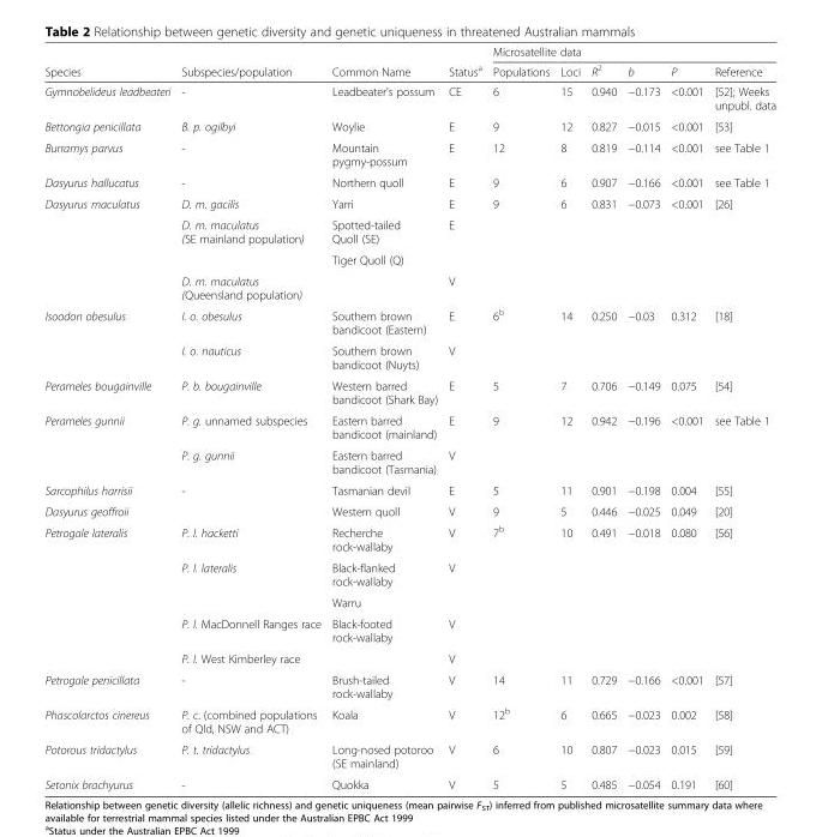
<table><thead><tr><td rowspan="2">Species</td><td rowspan="2">Subspecies/population</td><td rowspan="2">Common Name</td><td rowspan="2">Status<sup>a</sup></td><td colspan="6">Microsatellite data</td></tr><tr><td>Populations</td><td>Loci</td><td>R<sup>2</sup></td><td>b</td><td>P</td><td>Reference</td></tr></thead><tbody><tr><td>Gymnobelideus leadbeateri</td><td>-</td><td>Leadbeater&#x27;s possum</td><td>CE</td><td>6</td><td>15</td><td>0.940</td><td>−0.173</td><td>&lt;0.001</td><td>[52]; Weeks unpubl. data</td></tr><tr><td>Bettongia penicillata</td><td>B. p. ogilbyi</td><td>Woylie</td><td>E</td><td>9</td><td>12</td><td>0.827</td><td>−0.015</td><td>&lt;0.001</td><td>[53]</td></tr><tr><td>Burramys parvus</td><td>-</td><td>Mountain pygmy-possum</td><td>E</td><td>12</td><td>8</td><td>0.819</td><td>−0.114</td><td>&lt;0.001</td><td>see Table 1</td></tr><tr><td>Dasyurus hallucatus</td><td>-</td><td>Northern quoll</td><td>E</td><td>9</td><td>6</td><td>0.907</td><td>−0.166</td><td>&lt;0.001</td><td>see Table 1</td></tr><tr><td rowspan="4">Dasyurus maculatus</td><td>D. m. gacilis</td><td>Yarri</td><td>E</td><td>9</td><td>6</td><td>0.831</td><td>−0.073</td><td>&lt;0.001</td><td>[26]</td></tr><tr><td rowspan="2">D. m. maculatus (SE mainland population)</td><td>Spotted-tailed Quoll (SE)</td><td>E</td><td></td><td></td><td></td><td></td><td></td><td></td></tr><tr><td>Tiger Quoll (Q)</td><td></td><td></td><td></td><td></td><td></td><td></td><td></td></tr><tr><td>D. m. maculatus (Queensland population)</td><td></td><td>V</td><td></td><td></td><td></td><td></td><td></td><td></td></tr><tr><td rowspan="2">Isoodon obesulus</td><td>I. o. obesulus</td><td>Southern brown bandicoot (Eastern)</td><td>E</td><td>6<sup>b</sup></td><td>14</td><td>0.250</td><td>−0.03</td><td>0.312</td><td>[18]</td></tr><tr><td>I. o. nauticus</td><td>Southern brown bandicoot (Nuyts)</td><td>V</td><td></td><td></td><td></td><td></td><td></td><td></td></tr><tr><td>Perameles bougainville</td><td>P. b. bougainville</td><td>Western barred bandicoot (Shark Bay)</td><td>E</td><td>5</td><td>7</td><td>0.706</td><td>−0.149</td><td>0.075</td><td>[54]</td></tr><tr><td rowspan="2">Perameles gunnii</td><td>P. g. unnamed subspecies</td><td>Eastern barred bandicoot (mainland)</td><td>E</td><td>9</td><td>12</td><td>0.942</td><td>−0.196</td><td>&lt;0.001</td><td>see Table 1</td></tr><tr><td>P. g. gunnii</td><td>Eastern barred bandicoot (Tasmania)</td><td>V</td><td></td><td></td><td></td><td></td><td></td><td></td></tr><tr><td>Sarcophilus harrisii</td><td>-</td><td>Tasmanian devil</td><td>E</td><td>5</td><td>11</td><td>0.901</td><td>−0.198</td><td>0.004</td><td>[55]</td></tr><tr><td>Dasyurus geoffroii</td><td></td><td>Western quoll</td><td>V</td><td>9</td><td>5</td><td>0.446</td><td>−0.025</td><td>0.049</td><td>[20]</td></tr><tr><td rowspan="5">Petrogale lateralis</td><td>P. l. hacketti</td><td>Recherche rock-wallaby</td><td>V</td><td>7<sup>b</sup></td><td>10</td><td>0.491</td><td>−0.018</td><td>0.080</td><td>[56]</td></tr><tr><td>P. l. lateralis</td><td>Black-flanked rock-wallaby</td><td>V</td><td></td><td></td><td></td><td></td><td></td><td></td></tr><tr><td></td><td>Warru</td><td></td><td></td><td></td><td></td><td></td><td></td><td></td></tr><tr><td>P. l. MacDonnell Ranges race</td><td>Black-footed rock-wallaby</td><td>V</td><td></td><td></td><td></td><td></td><td></td><td></td></tr><tr><td>P. l. West Kimberley race</td><td></td><td>V</td><td></td><td></td><td></td><td></td><td></td><td></td></tr><tr><td>Petrogale penicillata</td><td>-</td><td>Brush-tailed rock-wallaby</td><td>V</td><td>14</td><td>11</td><td>0.729</td><td>−0.166</td><td>&lt;0.001</td><td>[57]</td></tr><tr><td>Phascolarctos cinereus</td><td>P. c. (combined populations of Qld, NSW and ACT)</td><td>Koala</td><td>V</td><td>12<sup>b</sup></td><td>6</td><td>0.665</td><td>−0.023</td><td>0.002</td><td>[58]</td></tr><tr><td>Potorous tridactylus</td><td>P. t. tridactylus</td><td>Long-nosed potoroo (SE mainland)</td><td>V</td><td>6</td><td>10</td><td>0.807</td><td>−0.023</td><td>0.015</td><td>[59]</td></tr><tr><td>Setonix brachyurus</td><td>-</td><td>Quokka</td><td>V</td><td>5</td><td>5</td><td>0.485</td><td>−0.054</td><td>0.191</td><td>[60]</td></tr></tbody></table>